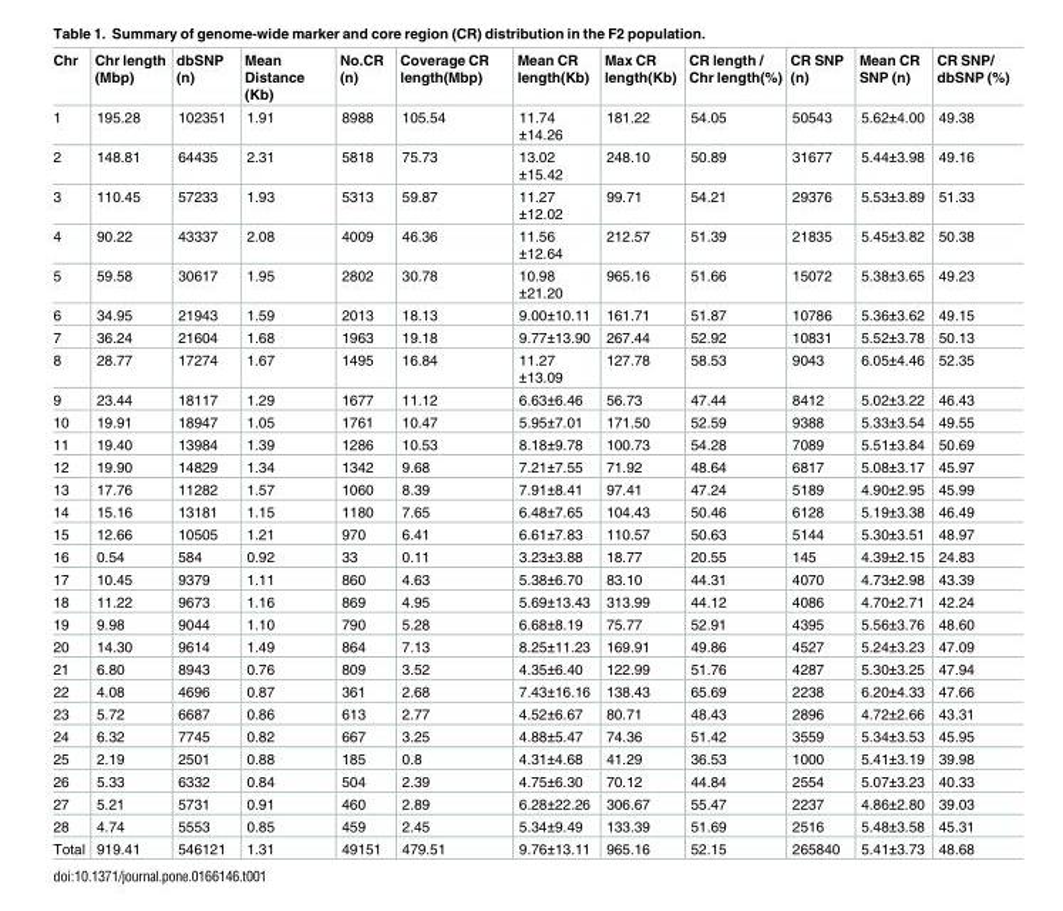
<table><thead><tr><td>Chr</td><td>Chr length (Mbp)</td><td>dbSNP (n)</td><td>Mean Distance (Kb)</td><td>No.CR (n)</td><td>Coverage CR length(Mbp)</td><td>Mean CR length(Kb)</td><td>Max CR length(Kb)</td><td>CR length / Chr length(%)</td><td>CR SNP (n)</td><td>Mean CR SNP (n)</td><td>CR SNP/ dbSNP (%)</td></tr></thead><tbody><tr><td>1</td><td>195.28</td><td>102351</td><td>1.91</td><td>8988</td><td>105.54</td><td>11.74 ±14.26</td><td>181.22</td><td>54.05</td><td>50543</td><td>5.62±4.00</td><td>49.38</td></tr><tr><td>2</td><td>148.81</td><td>64435</td><td>2.31</td><td>5818</td><td>75.73</td><td>13.02 ±15.42</td><td>248.10</td><td>50.89</td><td>31677</td><td>5.44±3.98</td><td>49.16</td></tr><tr><td>3</td><td>110.45</td><td>57233</td><td>1.93</td><td>5313</td><td>59.87</td><td>11.27 ±12.02</td><td>99.71</td><td>54.21</td><td>29376</td><td>5.53±3.89</td><td>51.33</td></tr><tr><td>4</td><td>90.22</td><td>43337</td><td>2.08</td><td>4009</td><td>46.36</td><td>11.56 ±12.64</td><td>212.57</td><td>51.39</td><td>21835</td><td>5.45±3.82</td><td>50.38</td></tr><tr><td>5</td><td>59.58</td><td>30617</td><td>1.95</td><td>2802</td><td>30.78</td><td>10.98 ±21.20</td><td>965.16</td><td>51.66</td><td>15072</td><td>5.38±3.65</td><td>49.23</td></tr><tr><td>6</td><td>34.95</td><td>21943</td><td>1.59</td><td>2013</td><td>18.13</td><td>9.00±10.11</td><td>161.71</td><td>51.87</td><td>10786</td><td>5.36±3.62</td><td>49.15</td></tr><tr><td>7</td><td>36.24</td><td>21604</td><td>1.68</td><td>1963</td><td>19.18</td><td>9.77±13.90</td><td>267.44</td><td>52.92</td><td>10831</td><td>5.52±3.78</td><td>50.13</td></tr><tr><td>8</td><td>28.77</td><td>17274</td><td>1.67</td><td>1495</td><td>16.84</td><td>11.27 ±13.09</td><td>127.78</td><td>58.53</td><td>9043</td><td>6.05±4.46</td><td>52.35</td></tr><tr><td>9</td><td>23.44</td><td>18117</td><td>1.29</td><td>1677</td><td>11.12</td><td>6.63±6.46</td><td>56.73</td><td>47.44</td><td>8412</td><td>5.02±3.22</td><td>46.43</td></tr><tr><td>10</td><td>19.91</td><td>18947</td><td>1.05</td><td>1761</td><td>10.47</td><td>5.95±7.01</td><td>171.50</td><td>52.59</td><td>9388</td><td>5.33±3.54</td><td>49.55</td></tr><tr><td>11</td><td>19.40</td><td>13984</td><td>1.39</td><td>1286</td><td>10.53</td><td>8.18±9.78</td><td>100.73</td><td>54.28</td><td>7089</td><td>5.51±3.84</td><td>50.69</td></tr><tr><td>12</td><td>19.90</td><td>14829</td><td>1.34</td><td>1342</td><td>9.68</td><td>7.21±7.55</td><td>71.92</td><td>48.64</td><td>6817</td><td>5.08±3.17</td><td>45.97</td></tr><tr><td>13</td><td>17.76</td><td>11282</td><td>1.57</td><td>1060</td><td>8.39</td><td>7.91±8.41</td><td>97.41</td><td>47.24</td><td>5189</td><td>4.90±2.95</td><td>45.99</td></tr><tr><td>14</td><td>15.16</td><td>13181</td><td>1.15</td><td>1180</td><td>7.65</td><td>6.48±7.65</td><td>104.43</td><td>50.46</td><td>6128</td><td>5.19±3.38</td><td>46.49</td></tr><tr><td>15</td><td>12.66</td><td>10505</td><td>1.21</td><td>970</td><td>6.41</td><td>6.61±7.83</td><td>110.57</td><td>50.63</td><td>5144</td><td>5.30±3.51</td><td>48.97</td></tr><tr><td>16</td><td>0.54</td><td>584</td><td>0.92</td><td>33</td><td>0.11</td><td>3.23±3.88</td><td>18.77</td><td>20.55</td><td>145</td><td>4.39±2.15</td><td>24.83</td></tr><tr><td>17</td><td>10.45</td><td>9379</td><td>1.11</td><td>860</td><td>4.63</td><td>5.38±6.70</td><td>83.10</td><td>44.31</td><td>4070</td><td>4.73±2.98</td><td>43.39</td></tr><tr><td>18</td><td>11.22</td><td>9673</td><td>1.16</td><td>869</td><td>4.95</td><td>5.69±13.43</td><td>313.99</td><td>44.12</td><td>4086</td><td>4.70±2.71</td><td>42.24</td></tr><tr><td>19</td><td>9.98</td><td>9044</td><td>1.10</td><td>790</td><td>5.28</td><td>6.68±8.19</td><td>75.77</td><td>52.91</td><td>4395</td><td>5.56±3.76</td><td>48.60</td></tr><tr><td>20</td><td>14.30</td><td>9614</td><td>1.49</td><td>864</td><td>7.13</td><td>8.25±11.23</td><td>169.91</td><td>49.86</td><td>4527</td><td>5.24±3.23</td><td>47.09</td></tr><tr><td>21</td><td>6.80</td><td>8943</td><td>0.76</td><td>809</td><td>3.52</td><td>4.35±6.40</td><td>122.99</td><td>51.76</td><td>4287</td><td>5.30±3.25</td><td>47.94</td></tr><tr><td>22</td><td>4.08</td><td>4696</td><td>0.87</td><td>361</td><td>2.68</td><td>7.43±16.16</td><td>138.43</td><td>65.69</td><td>2238</td><td>6.20±4.33</td><td>47.66</td></tr><tr><td>23</td><td>5.72</td><td>6687</td><td>0.86</td><td>613</td><td>2.77</td><td>4.52±6.67</td><td>80.71</td><td>48.43</td><td>2896</td><td>4.72±2.66</td><td>43.31</td></tr><tr><td>24</td><td>6.32</td><td>7745</td><td>0.82</td><td>667</td><td>3.25</td><td>4.88±5.47</td><td>74.36</td><td>51.42</td><td>3559</td><td>5.34±3.53</td><td>45.95</td></tr><tr><td>25</td><td>2.19</td><td>2501</td><td>0.88</td><td>185</td><td>0.8</td><td>4.31±4.68</td><td>41.29</td><td>36.53</td><td>1000</td><td>5.41±3.19</td><td>39.98</td></tr><tr><td>26</td><td>5.33</td><td>6332</td><td>0.84</td><td>504</td><td>2.39</td><td>4.75±6.30</td><td>70.12</td><td>44.84</td><td>2554</td><td>5.07±3.23</td><td>40.33</td></tr><tr><td>27</td><td>5.21</td><td>5731</td><td>0.91</td><td>460</td><td>2.89</td><td>6.28±22.26</td><td>306.67</td><td>55.47</td><td>2237</td><td>4.86±2.80</td><td>39.03</td></tr><tr><td>28</td><td>4.74</td><td>5553</td><td>0.85</td><td>459</td><td>2.45</td><td>5.34±9.49</td><td>133.39</td><td>51.69</td><td>2516</td><td>5.48±3.58</td><td>45.31</td></tr><tr><td>Total</td><td>919.41</td><td>546121</td><td>1.31</td><td>49151</td><td>479.51</td><td>9.76±13.11</td><td>965.16</td><td>52.15</td><td>265840</td><td>5.41±3.73</td><td>48.68</td></tr></tbody></table>